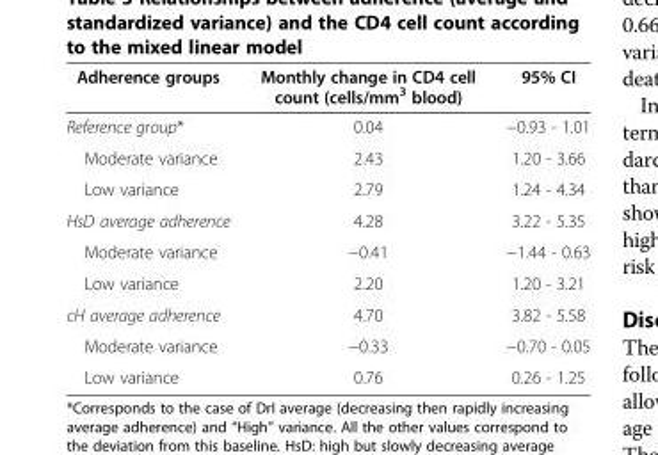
<table><thead><tr><td>Adherence groups</td><td>Monthly change in CD4 cell count (cells/mm<sup>3</sup> blood)</td><td>95% CI</td></tr></thead><tbody><tr><td>Reference group*</td><td>0.04</td><td>−0.93 - 1.01</td></tr><tr><td>Moderate variance</td><td>2.43</td><td>1.20 - 3.66</td></tr><tr><td>Low variance</td><td>2.79</td><td>1.24 - 4.34</td></tr><tr><td>HsD average adherence</td><td>4.28</td><td>3.22 - 5.35</td></tr><tr><td>Moderate variance</td><td>−0.41</td><td>−1.44 - 0.63</td></tr><tr><td>Low variance</td><td>2.20</td><td>1.20 - 3.21</td></tr><tr><td>cH average adherence</td><td>4.70</td><td>3.82 - 5.58</td></tr><tr><td>Moderate variance</td><td>−0.33</td><td>−0.70 - 0.05</td></tr><tr><td>Low variance</td><td>0.76</td><td>0.26 - 1.25</td></tr></tbody></table>